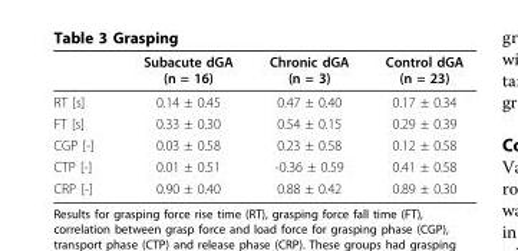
<table><thead><tr><td></td><td>Subacute dGA (n = 16)</td><td>Chronic dGA (n = 3)</td><td>Control dGA (n = 23)</td></tr></thead><tbody><tr><td>RT [s]</td><td>0.14 ± 0.45</td><td>0.47 ± 0.40</td><td>0.17 ± 0.34</td></tr><tr><td>FT [s]</td><td>0.33 ± 0.30</td><td>0.54 ± 0.15</td><td>0.29 ± 0.39</td></tr><tr><td>CGP [-]</td><td>0.03 ± 0.58</td><td>0.23 ± 0.58</td><td>0.12 ± 0.58</td></tr><tr><td>CTP [-]</td><td>0.01 ± 0.51</td><td>-0.36 ± 0.59</td><td>0.41 ± 0.58</td></tr><tr><td>CRP [-]</td><td>0.90 ± 0.40</td><td>0.88 ± 0.42</td><td>0.89 ± 0.30</td></tr></tbody></table>